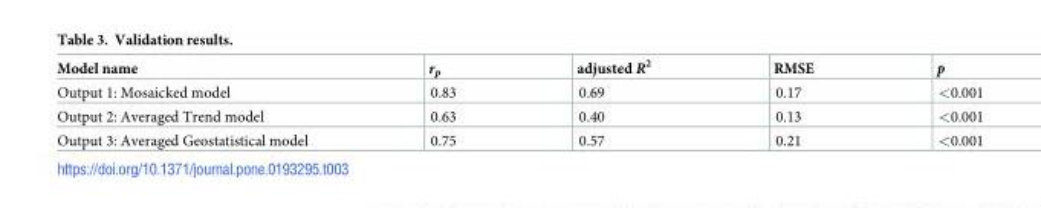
<table><thead><tr><td>Model name</td><td>r<sub>p</sub></td><td>adjusted R<sup>2</sup></td><td>RMSE</td><td>p</td></tr></thead><tbody><tr><td>Output 1: Mosaicked model</td><td>0.83</td><td>0.69</td><td>0.17</td><td>&lt;0.001</td></tr><tr><td>Output 2: Averaged Trend model</td><td>0.63</td><td>0.40</td><td>0.13</td><td>&lt;0.001</td></tr><tr><td>Output 3: Averaged Geostatistical model</td><td>0.75</td><td>0.57</td><td>0.21</td><td>&lt;0.001</td></tr></tbody></table>